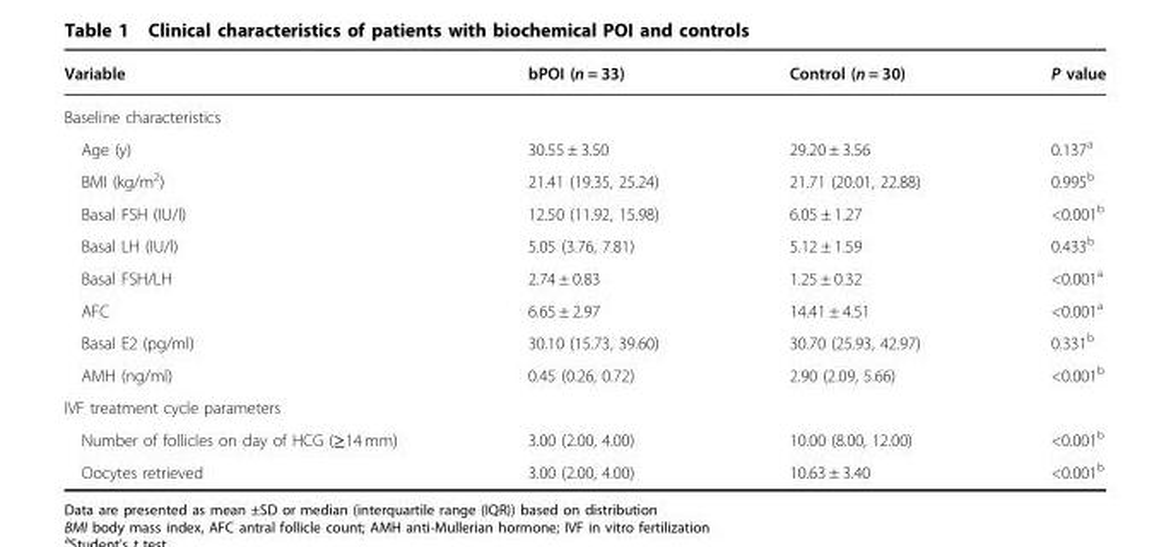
<table><thead><tr><td>Variable</td><td>bPOI (n = 33)</td><td>Control (n = 30)</td><td>P value</td></tr></thead><tbody><tr><td colspan="4">Baseline characteristics</td></tr><tr><td>Age (y)</td><td>30.55 ± 3.50</td><td>29.20 ± 3.56</td><td>0.137<sup>a</sup></td></tr><tr><td>BMI (kg/m<sup>2</sup>)</td><td>21.41 (19.35, 25.24)</td><td>21.71 (20.01, 22.88)</td><td>0.995<sup>b</sup></td></tr><tr><td>Basal FSH (IU/l)</td><td>12.50 (11.92, 15.98)</td><td>6.05 ± 1.27</td><td>&lt;0.001<sup>b</sup></td></tr><tr><td>Basal LH (IU/l)</td><td>5.05 (3.76, 7.81)</td><td>5.12 ± 1.59</td><td>0.433<sup>b</sup></td></tr><tr><td>Basal FSH/LH</td><td>2.74 ± 0.83</td><td>1.25 ± 0.32</td><td>&lt;0.001<sup>a</sup></td></tr><tr><td>AFC</td><td>6.65 ± 2.97</td><td>14.41 ± 4.51</td><td>&lt;0.001<sup>a</sup></td></tr><tr><td>Basal E2 (pg/ml)</td><td>30.10 (15.73, 39.60)</td><td>30.70 (25.93, 42.97)</td><td>0.331<sup>b</sup></td></tr><tr><td>AMH (ng/ml)</td><td>0.45 (0.26, 0.72)</td><td>2.90 (2.09, 5.66)</td><td>&lt;0.001<sup>b</sup></td></tr><tr><td colspan="4">IVF treatment cycle parameters</td></tr><tr><td>Number of follicles on day of HCG (≥14 mm)</td><td>3.00 (2.00, 4.00)</td><td>10.00 (8.00, 12.00)</td><td>&lt;0.001<sup>b</sup></td></tr><tr><td>Oocytes retrieved</td><td>3.00 (2.00, 4.00)</td><td>10.63 ± 3.40</td><td>&lt;0.001<sup>b</sup></td></tr></tbody></table>